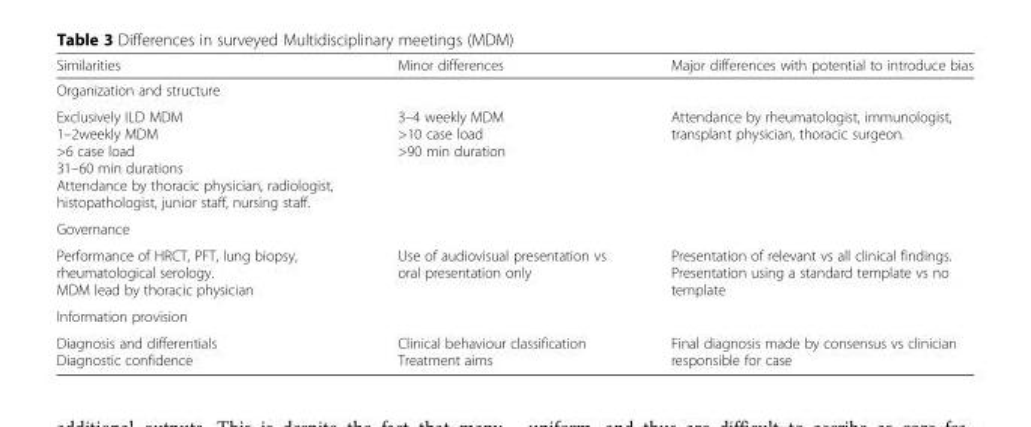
<table><thead><tr><td>Similarities</td><td>Minor differences</td><td>Major differences with potential to introduce bias</td></tr></thead><tbody><tr><td colspan="3">Organization and structure</td></tr><tr><td>Exclusively ILD MDM 1–2weekly MDM &gt;6 case load 31–60 min durations Attendance by thoracic physician, radiologist, histopathologist, junior staff, nursing staff.</td><td>3–4 weekly MDM &gt;10 case load &gt;90 min duration</td><td>Attendance by rheumatologist, immunologist, transplant physician, thoracic surgeon.</td></tr><tr><td colspan="3">Governance</td></tr><tr><td>Performance of HRCT, PFT, lung biopsy, rheumatological serology. MDM lead by thoracic physician</td><td>Use of audiovisual presentation vs oral presentation only</td><td>Presentation of relevant vs all clinical findings. Presentation using a standard template vs no template</td></tr><tr><td colspan="3">Information provision</td></tr><tr><td>Diagnosis and differentials Diagnostic confidence</td><td>Clinical behaviour classification Treatment aims</td><td>Final diagnosis made by consensus vs clinician responsible for case</td></tr></tbody></table>